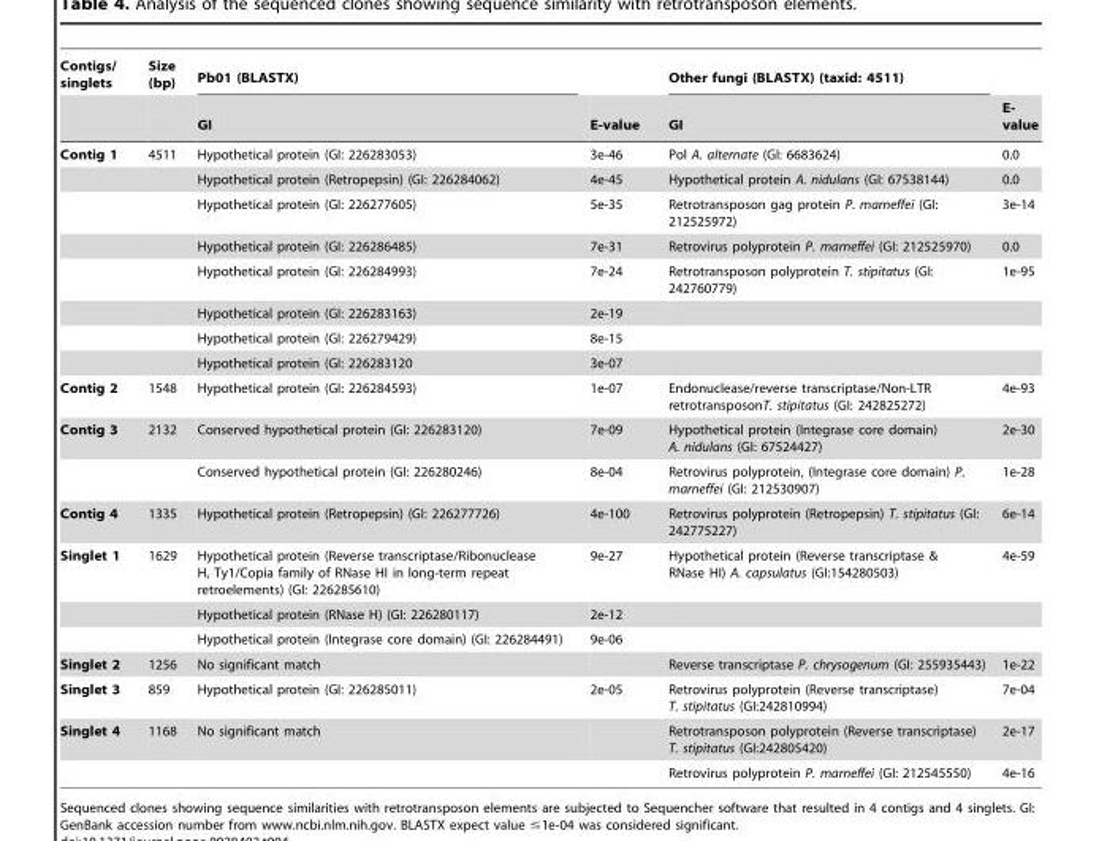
<table><thead><tr><td rowspan="2">Contigs/ singlets</td><td rowspan="2">Size (bp)</td><td rowspan="2">Pb01 (BLASTX) GI</td><td rowspan="2">E-value</td><td rowspan="2">Other fungi (BLASTX) (taxid: 4511) GI</td><td rowspan="2">E- value</td></tr><tr></tr></thead><tbody><tr><td rowspan="8">Contig 1</td><td>4511</td><td>Hypothetical protein (GI: 226283053)</td><td>3e-46</td><td>Pol A. alternate (GI: 6683624)</td><td>0.0</td></tr><tr><td></td><td>Hypothetical protein (Retropepsin) (GI: 226284062)</td><td>4e-45</td><td>Hypothetical protein A. nidulans (GI: 67538144)</td><td>0.0</td></tr><tr><td></td><td>Hypothetical protein (GI: 226277605)</td><td>5e-35</td><td>Retrotransposon gag protein P. marneffei (GI: 212525972)</td><td>3e-14</td></tr><tr><td></td><td>Hypothetical protein (GI: 226286485)</td><td>7e-31</td><td>Retrovirus polyprotein P. marneffei (GI: 212525970)</td><td>0.0</td></tr><tr><td></td><td>Hypothetical protein (GI: 226284993)</td><td>7e-24</td><td>Retrotransposon polyprotein T. stipitatus (GI: 242760779)</td><td>1e-95</td></tr><tr><td></td><td>Hypothetical protein (GI: 226283163)</td><td>2e-19</td><td></td><td></td></tr><tr><td></td><td>Hypothetical protein (GI: 226279429)</td><td>8e-15</td><td></td><td></td></tr><tr><td></td><td>Hypothetical protein (GI: 226283120</td><td>3e-07</td><td></td><td></td></tr><tr><td>Contig 2</td><td>1548</td><td>Hypothetical protein (GI: 226284593)</td><td>1e-07</td><td>Endonuclease/reverse transcriptase/Non-LTR retrotransposonT. stipitatus (GI: 242825272)</td><td>4e-93</td></tr><tr><td rowspan="2">Contig 3</td><td>2132</td><td>Conserved hypothetical protein (GI: 226283120)</td><td>7e-09</td><td>Hypothetical protein (Integrase core domain) A. nidulans (GI: 67524427)</td><td>2e-30</td></tr><tr><td></td><td>Conserved hypothetical protein (GI: 226280246)</td><td>8e-04</td><td>Retrovirus polyprotein, (Integrase core domain) P. marneffei (GI: 212530907)</td><td>1e-28</td></tr><tr><td>Contig 4</td><td>1335</td><td>Hypothetical protein (Retropepsin) (GI: 226277726)</td><td>4e-100</td><td>Retrovirus polyprotein (Retropepsin) T. stipitatus (GI: 242775227)</td><td>6e-14</td></tr><tr><td rowspan="3">Singlet 1</td><td>1629</td><td>Hypothetical protein (Reverse transcriptase/Ribonuclease H, Ty1/Copia family of RNase HI in long-term repeat retroelements) (GI: 226285610)</td><td>9e-27</td><td>Hypothetical protein (Reverse transcriptase &amp; RNase HI) A. capsulatus (GI:154280503)</td><td>4e-59</td></tr><tr><td></td><td>Hypothetical protein (RNase H) (GI: 226280117)</td><td>2e-12</td><td></td><td></td></tr><tr><td></td><td>Hypothetical protein (Integrase core domain) (GI: 226284491)</td><td>9e-06</td><td></td><td></td></tr><tr><td>Singlet 2</td><td>1256</td><td>No significant match</td><td></td><td>Reverse transcriptase P. chrysogenum (GI: 255935443)</td><td>1e-22</td></tr><tr><td>Singlet 3</td><td>859</td><td>Hypothetical protein (GI: 226285011)</td><td>2e-05</td><td>Retrovirus polyprotein (Reverse transcriptase) T. stipitatus (GI:242810994)</td><td>7e-04</td></tr><tr><td rowspan="2">Singlet 4</td><td>1168</td><td>No significant match</td><td></td><td>Retrotransposon polyprotein (Reverse transcriptase) T. stipitatus (GI:242805420)</td><td>2e-17</td></tr><tr><td></td><td></td><td></td><td>Retrovirus polyprotein P. marneffei (GI: 212545550)</td><td>4e-16</td></tr></tbody></table>